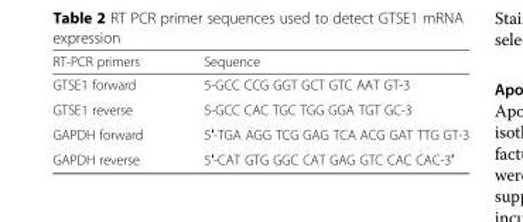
<table><thead><tr><td>RT-PCR primers</td><td>Sequence</td></tr></thead><tbody><tr><td>GTSE1 forward</td><td>5-GCC CCG GGT GCT GTC AAT GT-3</td></tr><tr><td>GTSE1 reverse</td><td>5-GCC CAC TGC TGG GGA TGT GC-3</td></tr><tr><td>GAPDH forward</td><td>5′-TGA AGG TCG GAG TCA ACG GAT TTG GT-3</td></tr><tr><td>GAPDH reverse</td><td>5′-CAT GTG GGC CAT GAG GTC CAC CAC-3′</td></tr></tbody></table>